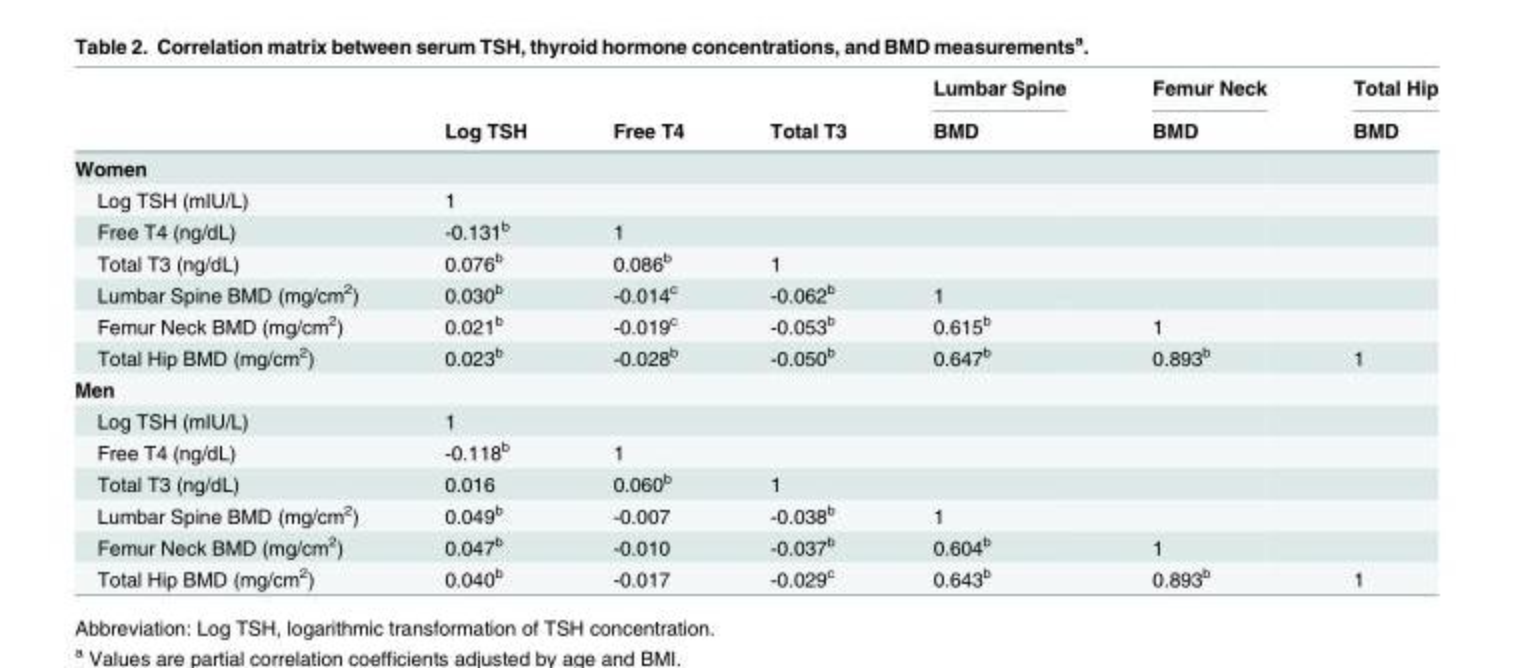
<table><thead><tr><td rowspan="2"></td><td rowspan="2">Log TSH</td><td rowspan="2">Free T4</td><td rowspan="2">Total T3</td><td rowspan="2">Lumbar Spine BMD</td><td rowspan="2">Femur Neck BMD</td><td rowspan="2">Total Hip BMD</td></tr><tr></tr></thead><tbody><tr><td colspan="7">Women</td></tr><tr><td>Log TSH (mIU/L)</td><td>1</td><td></td><td></td><td></td><td></td><td></td></tr><tr><td>Free T4 (ng/dL)</td><td>-0.131<sup>b</sup></td><td>1</td><td></td><td></td><td></td><td></td></tr><tr><td>Total T3 (ng/dL)</td><td>0.076<sup>b</sup></td><td>0.086<sup>b</sup></td><td>1</td><td></td><td></td><td></td></tr><tr><td>Lumbar Spine BMD (mg/cm<sup>2</sup>)</td><td>0.030<sup>b</sup></td><td>-0.014<sup>c</sup></td><td>-0.062<sup>b</sup></td><td>1</td><td></td><td></td></tr><tr><td>Femur Neck BMD (mg/cm<sup>2</sup>)</td><td>0.021<sup>b</sup></td><td>-0.019<sup>c</sup></td><td>-0.053<sup>b</sup></td><td>0.615<sup>b</sup></td><td>1</td><td></td></tr><tr><td>Total Hip BMD (mg/cm<sup>2</sup>)</td><td>0.023<sup>b</sup></td><td>-0.028<sup>b</sup></td><td>-0.050<sup>b</sup></td><td>0.647<sup>b</sup></td><td>0.893<sup>b</sup></td><td>1</td></tr><tr><td colspan="7">Men</td></tr><tr><td>Log TSH (mIU/L)</td><td>1</td><td></td><td></td><td></td><td></td><td></td></tr><tr><td>Free T4 (ng/dL)</td><td>-0.118<sup>b</sup></td><td>1</td><td></td><td></td><td></td><td></td></tr><tr><td>Total T3 (ng/dL)</td><td>0.016</td><td>0.060<sup>b</sup></td><td>1</td><td></td><td></td><td></td></tr><tr><td>Lumbar Spine BMD (mg/cm<sup>2</sup>)</td><td>0.049<sup>b</sup></td><td>-0.007</td><td>-0.038<sup>b</sup></td><td>1</td><td></td><td></td></tr><tr><td>Femur Neck BMD (mg/cm<sup>2</sup>)</td><td>0.047<sup>b</sup></td><td>-0.010</td><td>-0.037<sup>b</sup></td><td>0.604<sup>b</sup></td><td>1</td><td></td></tr><tr><td>Total Hip BMD (mg/cm<sup>2</sup>)</td><td>0.040<sup>b</sup></td><td>-0.017</td><td>-0.029<sup>c</sup></td><td>0.643<sup>b</sup></td><td>0.893<sup>b</sup></td><td>1</td></tr></tbody></table>